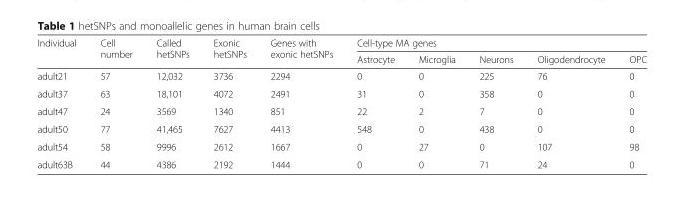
<table><thead><tr><td rowspan="2">Individual</td><td rowspan="2">Cell number</td><td rowspan="2">Called hetSNPs</td><td rowspan="2">Exonic hetSNPs</td><td rowspan="2">Genes with exonic hetSNPs</td><td colspan="5">Cell-type MA genes</td></tr><tr><td>Astrocyte</td><td>Microglia</td><td>Neurons</td><td>Oligodendrocyte</td><td>OPC</td></tr></thead><tbody><tr><td>adult21</td><td>57</td><td>12,032</td><td>3736</td><td>2294</td><td>0</td><td>0</td><td>225</td><td>76</td><td>0</td></tr><tr><td>adult37</td><td>63</td><td>18,101</td><td>4072</td><td>2491</td><td>31</td><td>0</td><td>358</td><td>0</td><td>0</td></tr><tr><td>adult47</td><td>24</td><td>3569</td><td>1340</td><td>851</td><td>22</td><td>2</td><td>7</td><td>0</td><td>0</td></tr><tr><td>adult50</td><td>77</td><td>41,465</td><td>7627</td><td>4413</td><td>548</td><td>0</td><td>438</td><td>0</td><td>0</td></tr><tr><td>adult54</td><td>58</td><td>9996</td><td>2612</td><td>1667</td><td>0</td><td>27</td><td>0</td><td>107</td><td>98</td></tr><tr><td>adult63B</td><td>44</td><td>4386</td><td>2192</td><td>1444</td><td>0</td><td>0</td><td>71</td><td>24</td><td>0</td></tr></tbody></table>